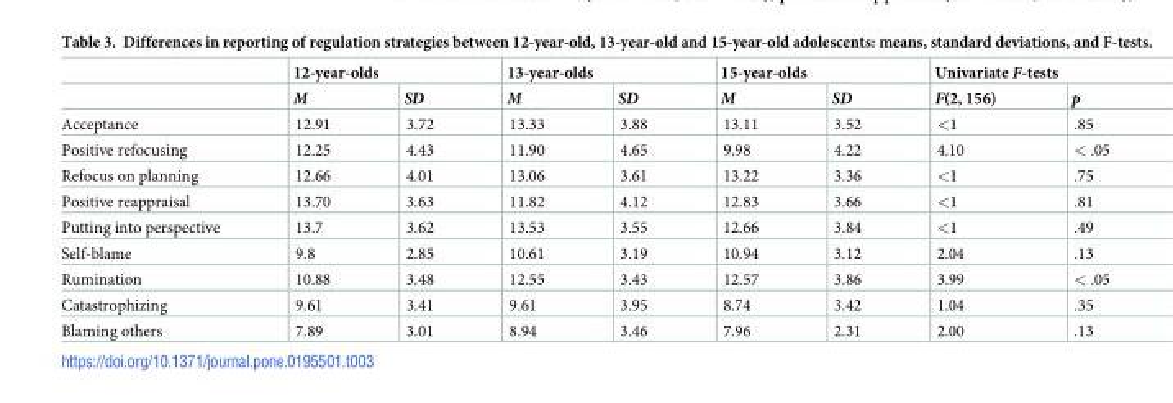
<table><thead><tr><td rowspan="2"></td><td colspan="2">12-year-olds</td><td colspan="2">13-year-olds</td><td colspan="2">15-year-olds</td><td colspan="2">Univariate F-tests</td></tr><tr><td>M</td><td>SD</td><td>M</td><td>SD</td><td>M</td><td>SD</td><td>F(2, 156)</td><td>p</td></tr></thead><tbody><tr><td>Acceptance</td><td>12.91</td><td>3.72</td><td>13.33</td><td>3.88</td><td>13.11</td><td>3.52</td><td>&lt;1</td><td>.85</td></tr><tr><td>Positive refocusing</td><td>12.25</td><td>4.43</td><td>11.90</td><td>4.65</td><td>9.98</td><td>4.22</td><td>4.10</td><td>&lt; .05</td></tr><tr><td>Refocus on planning</td><td>12.66</td><td>4.01</td><td>13.06</td><td>3.61</td><td>13.22</td><td>3.36</td><td>&lt;1</td><td>.75</td></tr><tr><td>Positive reappraisal</td><td>13.70</td><td>3.63</td><td>11.82</td><td>4.12</td><td>12.83</td><td>3.66</td><td>&lt;1</td><td>.81</td></tr><tr><td>Putting into perspective</td><td>13.7</td><td>3.62</td><td>13.53</td><td>3.55</td><td>12.66</td><td>3.84</td><td>&lt;1</td><td>.49</td></tr><tr><td>Self-blame</td><td>9.8</td><td>2.85</td><td>10.61</td><td>3.19</td><td>10.94</td><td>3.12</td><td>2.04</td><td>.13</td></tr><tr><td>Rumination</td><td>10.88</td><td>3.48</td><td>12.55</td><td>3.43</td><td>12.57</td><td>3.86</td><td>3.99</td><td>&lt; .05</td></tr><tr><td>Catastrophizing</td><td>9.61</td><td>3.41</td><td>9.61</td><td>3.95</td><td>8.74</td><td>3.42</td><td>1.04</td><td>.35</td></tr><tr><td>Blaming others</td><td>7.89</td><td>3.01</td><td>8.94</td><td>3.46</td><td>7.96</td><td>2.31</td><td>2.00</td><td>.13</td></tr></tbody></table>